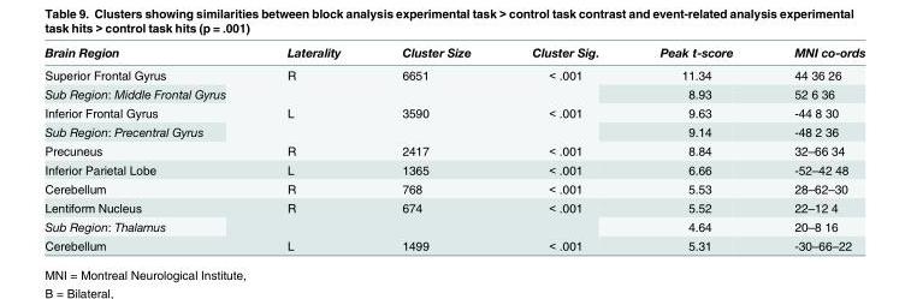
<table><thead><tr><td>Brain Region</td><td>Laterality</td><td>Cluster Size</td><td>Cluster Sig.</td><td>Peak t-score</td><td>MNI co-ords</td></tr></thead><tbody><tr><td>Superior Frontal Gyrus</td><td rowspan="2">R</td><td rowspan="2">6651</td><td rowspan="2">&lt; .001</td><td>11.34</td><td>44 36 26</td></tr><tr><td>Sub Region: Middle Frontal Gyrus</td><td>8.93</td><td>52 6 36</td></tr><tr><td>Inferior Frontal Gyrus</td><td rowspan="2">L</td><td rowspan="2">3590</td><td rowspan="2">&lt; .001</td><td>9.63</td><td>-44 8 30</td></tr><tr><td>Sub Region: Precentral Gyrus</td><td>9.14</td><td>-48 2 36</td></tr><tr><td>Precuneus</td><td>R</td><td>2417</td><td>&lt; .001</td><td>8.84</td><td>32–66 34</td></tr><tr><td>Inferior Parietal Lobe</td><td>L</td><td>1365</td><td>&lt; .001</td><td>6.66</td><td>-52–42 48</td></tr><tr><td>Cerebellum</td><td>R</td><td>768</td><td>&lt; .001</td><td>5.53</td><td>28–62–30</td></tr><tr><td>Lentiform Nucleus</td><td rowspan="2">R</td><td rowspan="2">674</td><td rowspan="2">&lt; .001</td><td>5.52</td><td>22–12 4</td></tr><tr><td>Sub Region: Thalamus</td><td>4.64</td><td>20–8 16</td></tr><tr><td>Cerebellum</td><td>L</td><td>1499</td><td>&lt; .001</td><td>5.31</td><td>-30–66–22</td></tr></tbody></table>